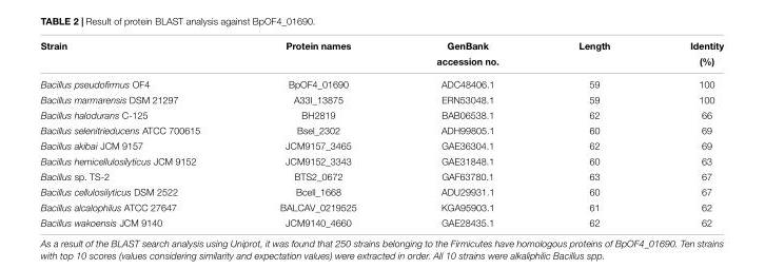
<table><thead><tr><td rowspan="2">Strain</td><td rowspan="2">Protein names</td><td rowspan="2">GenBank accession no.</td><td rowspan="2">Length</td><td rowspan="2">Identity (%)</td></tr><tr></tr></thead><tbody><tr><td>Bacillus pseudofirmus OF4</td><td>BpOF4_01690</td><td>ADC48406.1</td><td>59</td><td>100</td></tr><tr><td>Bacillus marmarensis DSM 21297</td><td>A33I_13875</td><td>ERN53048.1</td><td>59</td><td>100</td></tr><tr><td>Bacillus halodurans C-125</td><td>BH2819</td><td>BAB06538.1</td><td>62</td><td>66</td></tr><tr><td>Bacillus selenitrieducens ATCC 700615</td><td>Bsel_2302</td><td>ADH99805.1</td><td>60</td><td>69</td></tr><tr><td>Bacillus akibai JCM 9157</td><td>JCM9157_3465</td><td>GAE36304.1</td><td>62</td><td>69</td></tr><tr><td>Bacillus hemicellulosilyticus JCM 9152</td><td>JCM9152_3343</td><td>GAE31848.1</td><td>60</td><td>63</td></tr><tr><td>Bacillus sp. TS-2</td><td>BTS2_0672</td><td>GAF63780.1</td><td>63</td><td>67</td></tr><tr><td>Bacillus cellulosilyticus DSM 2522</td><td>Bcell_1668</td><td>ADU29931.1</td><td>60</td><td>67</td></tr><tr><td>Bacillus alcalophilus ATCC 27647</td><td>BALCAV_0219525</td><td>KGA95903.1</td><td>61</td><td>62</td></tr><tr><td>Bacillus wakoensis JCM 9140</td><td>JCM9140_4660</td><td>GAE28435.1</td><td>62</td><td>62</td></tr></tbody></table>